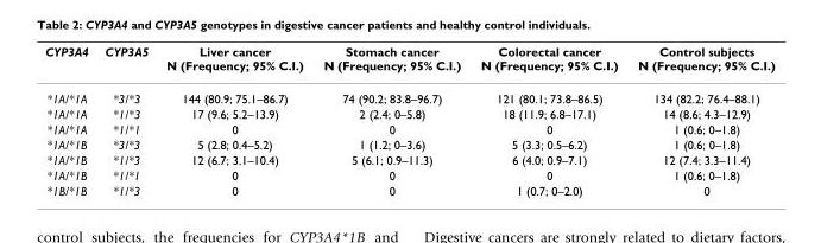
<table><thead><tr><td>CYP3A4</td><td>CYP3A5</td><td>Liver cancer N (Frequency; 95% C.I.)</td><td>Stomach cancer N (Frequency; 95% C.I.)</td><td>Colorectal cancer N (Frequency; 95% C.I.)</td><td>Control subjects N (Frequency; 95% C.I.)</td></tr></thead><tbody><tr><td>*1A/*1A</td><td>*3/*3</td><td>144 (80.9; 75.1–86.7)</td><td>74 (90.2; 83.8–96.7)</td><td>121 (80.1; 73.8–86.5)</td><td>134 (82.2; 76.4–88.1)</td></tr><tr><td>*1A/*1A</td><td>*1/*3</td><td>17 (9.6; 5.2–13.9)</td><td>2 (2.4; 0–5.8)</td><td>18 (11.9; 6.8–17.1)</td><td>14 (8.6; 4.3–12.9)</td></tr><tr><td>*1A/*1A</td><td>*1/*1</td><td>0</td><td>0</td><td>0</td><td>1 (0.6; 0–1.8)</td></tr><tr><td>*1A/*1B</td><td>*3/*3</td><td>5 (2.8; 0.4–5.2)</td><td>1 (1.2; 0–3.6)</td><td>5 (3.3; 0.5–6.2)</td><td>1 (0.6; 0–1.8)</td></tr><tr><td>*1A/*1B</td><td>*1/*3</td><td>12 (6.7; 3.1–10.4)</td><td>5 (6.1; 0.9–11.3)</td><td>6 (4.0; 0.9–7.1)</td><td>12 (7.4; 3.3–11.4)</td></tr><tr><td>*1A/*1B</td><td>*1/*1</td><td>0</td><td>0</td><td>0</td><td>1 (0.6; 0–1.8)</td></tr><tr><td>*1B/*1B</td><td>*1/*3</td><td>0</td><td>0</td><td>1 (0.7; 0–2.0)</td><td>0</td></tr></tbody></table>